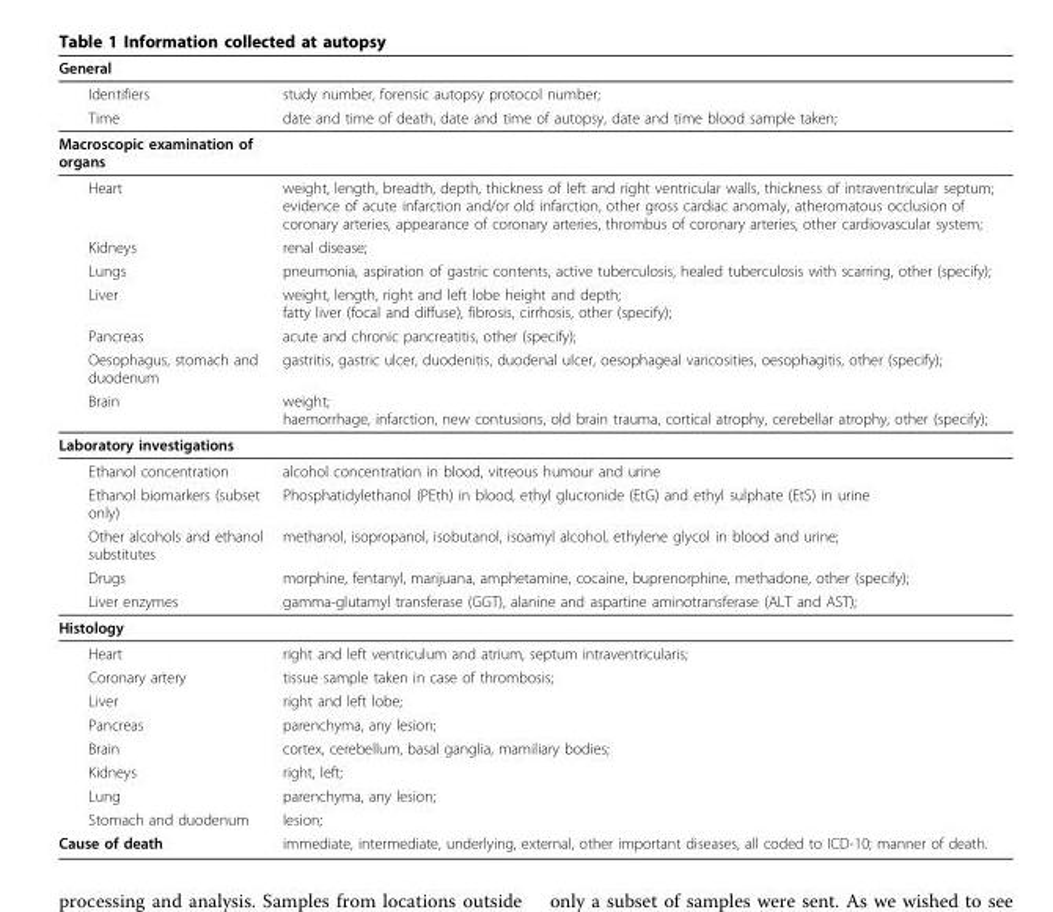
<table><thead><tr><td>General</td><td></td></tr></thead><tbody><tr><td>Identifiers</td><td>study number, forensic autopsy protocol number;</td></tr><tr><td>Time</td><td>date and time of death, date and time of autopsy, date and time blood sample taken;</td></tr><tr><td colspan="2">Macroscopic examination of organs</td></tr><tr><td>Heart</td><td>weight, length, breadth, depth, thickness of left and right ventricular walls, thickness of intraventricular septum; evidence of acute infarction and/or old infarction, other gross cardiac anomaly, atheromatous occlusion of coronary arteries, appearance of coronary arteries, thrombus of coronary arteries, other cardiovascular system;</td></tr><tr><td>Kidneys</td><td>renal disease;</td></tr><tr><td>Lungs</td><td>pneumonia, aspiration of gastric contents, active tuberculosis, healed tuberculosis with scarring, other (specify);</td></tr><tr><td>Liver</td><td>weight, length, right and left lobe height and depth; fatty liver (focal and diffuse), fibrosis, cirrhosis, other (specify);</td></tr><tr><td>Pancreas</td><td>acute and chronic pancreatitis, other (specify);</td></tr><tr><td>Oesophagus, stomach and duodenum</td><td>gastritis, gastric ulcer, duodenitis, duodenal ulcer, oesophageal varicosities, oesophagitis, other (specify);</td></tr><tr><td>Brain</td><td>weight; haemorrhage, infarction, new contusions, old brain trauma, cortical atrophy, cerebellar atrophy, other (specify);</td></tr><tr><td colspan="2">Laboratory investigations</td></tr><tr><td>Ethanol concentration</td><td>alcohol concentration in blood, vitreous humour and urine</td></tr><tr><td>Ethanol biomarkers (subset only)</td><td>Phosphatidylethanol (PEth) in blood, ethyl glucronide (EtG) and ethyl sulphate (EtS) in urine</td></tr><tr><td>Other alcohols and ethanol substitutes</td><td>methanol, isopropanol, isobutanol, isoamyl alcohol, ethylene glycol in blood and urine;</td></tr><tr><td>Drugs</td><td>morphine, fentanyl, marijuana, amphetamine, cocaine, buprenorphine, methadone, other (specify);</td></tr><tr><td>Liver enzymes</td><td>gamma-glutamyl transferase (GGT), alanine and aspartine aminotransferase (ALT and AST);</td></tr><tr><td colspan="2">Histology</td></tr><tr><td>Heart</td><td>right and left ventriculum and atrium, septum intraventricularis;</td></tr><tr><td>Coronary artery</td><td>tissue sample taken in case of thrombosis;</td></tr><tr><td>Liver</td><td>right and left lobe;</td></tr><tr><td>Pancreas</td><td>parenchyma, any lesion;</td></tr><tr><td>Brain</td><td>cortex, cerebellum, basal ganglia, mamiliary bodies;</td></tr><tr><td>Kidneys</td><td>right, left;</td></tr><tr><td>Lung</td><td>parenchyma, any lesion;</td></tr><tr><td>Stomach and duodenum</td><td>lesion;</td></tr><tr><td>Cause of death</td><td>immediate, intermediate, underlying, external, other important diseases, all coded to ICD-10; manner of death.</td></tr></tbody></table>